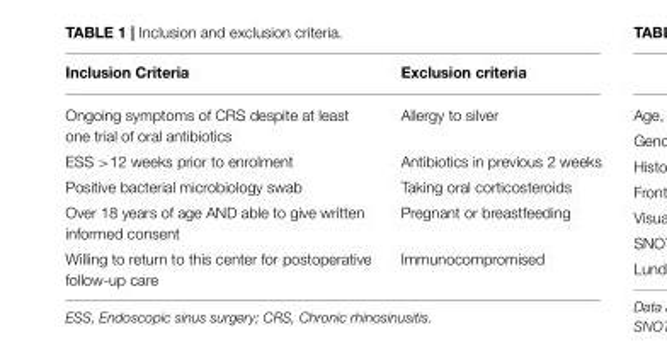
<table><thead><tr><td>Inclusion Criteria</td><td>Exclusion criteria</td></tr></thead><tbody><tr><td>Ongoing symptoms of CRS despite at least one trial of oral antibiotics</td><td>Allergy to silver</td></tr><tr><td>ESS &gt;12 weeks prior to enrolment</td><td>Antibiotics in previous 2 weeks</td></tr><tr><td>Positive bacterial microbiology swab</td><td>Taking oral corticosteroids</td></tr><tr><td>Over 18 years of age AND able to give written informed consent</td><td>Pregnant or breastfeeding</td></tr><tr><td>Willing to return to this center for postoperative follow-up care</td><td>Immunocompromised</td></tr></tbody></table>